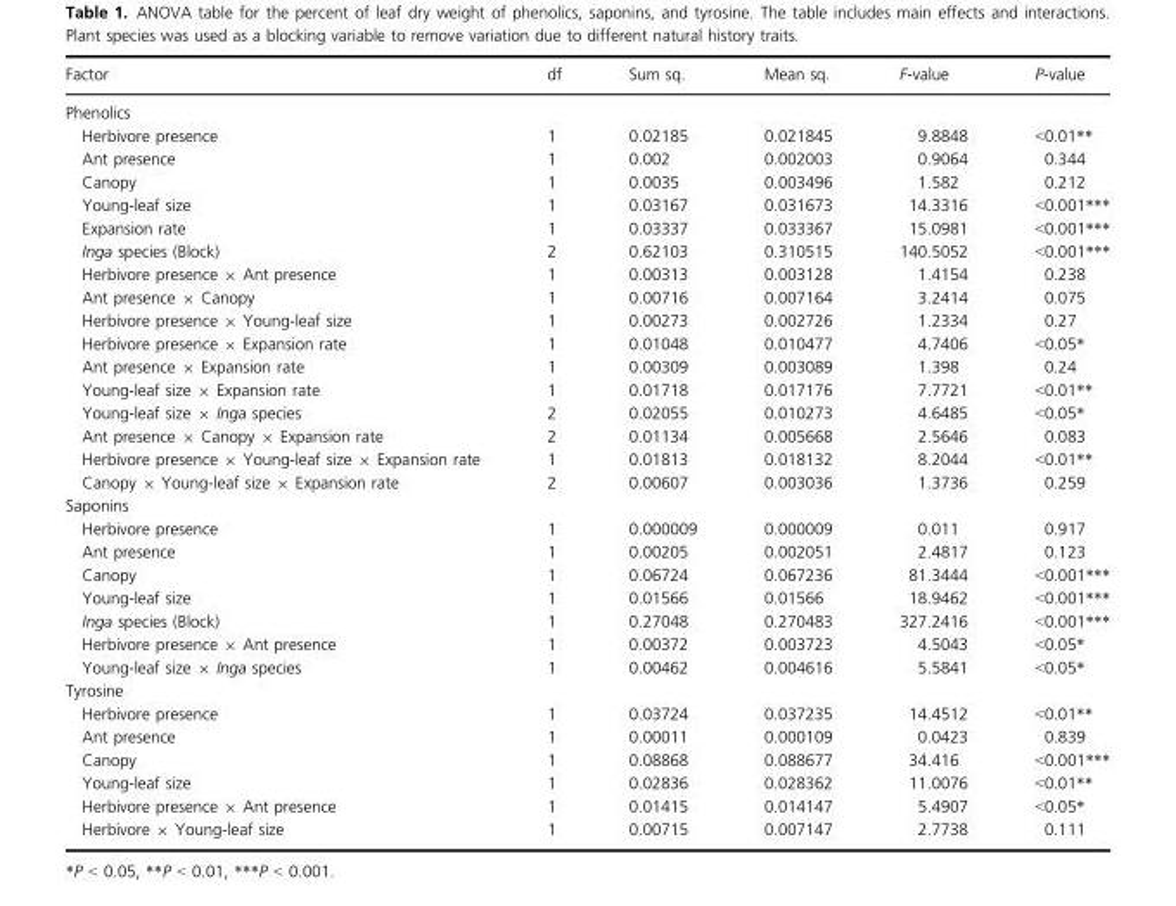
<table><thead><tr><td>Factor</td><td>df</td><td>Sum sq.</td><td>Mean sq.</td><td>F-value</td><td>P-value</td></tr></thead><tbody><tr><td colspan="6">Phenolics</td></tr><tr><td>Herbivore presence</td><td>1</td><td>0.02185</td><td>0.021845</td><td>9.8848</td><td>&lt;0.01**</td></tr><tr><td>Ant presence</td><td>1</td><td>0.002</td><td>0.002003</td><td>0.9064</td><td>0.344</td></tr><tr><td>Canopy</td><td>1</td><td>0.0035</td><td>0.003496</td><td>1.582</td><td>0.212</td></tr><tr><td>Young-leaf size</td><td>1</td><td>0.03167</td><td>0.031673</td><td>14.3316</td><td>&lt;0.001***</td></tr><tr><td>Expansion rate</td><td>1</td><td>0.03337</td><td>0.033367</td><td>15.0981</td><td>&lt;0.001***</td></tr><tr><td>Inga species (Block)</td><td>2</td><td>0.62103</td><td>0.310515</td><td>140.5052</td><td>&lt;0.001***</td></tr><tr><td>Herbivore presence × Ant presence</td><td>1</td><td>0.00313</td><td>0.003128</td><td>1.4154</td><td>0.238</td></tr><tr><td>Ant presence × Canopy</td><td>1</td><td>0.00716</td><td>0.007164</td><td>3.2414</td><td>0.075</td></tr><tr><td>Herbivore presence × Young-leaf size</td><td>1</td><td>0.00273</td><td>0.002726</td><td>1.2334</td><td>0.27</td></tr><tr><td>Herbivore presence × Expansion rate</td><td>1</td><td>0.01048</td><td>0.010477</td><td>4.7406</td><td>&lt;0.05*</td></tr><tr><td>Ant presence × Expansion rate</td><td>1</td><td>0.00309</td><td>0.003089</td><td>1.398</td><td>0.24</td></tr><tr><td>Young-leaf size × Expansion rate</td><td>1</td><td>0.01718</td><td>0.017176</td><td>7.7721</td><td>&lt;0.01**</td></tr><tr><td>Young-leaf size × Inga species</td><td>2</td><td>0.02055</td><td>0.010273</td><td>4.6485</td><td>&lt;0.05*</td></tr><tr><td>Ant presence × Canopy × Expansion rate</td><td>2</td><td>0.01134</td><td>0.005668</td><td>2.5646</td><td>0.083</td></tr><tr><td>Herbivore presence × Young-leaf size × Expansion rate</td><td>1</td><td>0.01813</td><td>0.018132</td><td>8.2044</td><td>&lt;0.01**</td></tr><tr><td>Canopy × Young-leaf size × Expansion rate</td><td>2</td><td>0.00607</td><td>0.003036</td><td>1.3736</td><td>0.259</td></tr><tr><td colspan="6">Saponins</td></tr><tr><td>Herbivore presence</td><td>1</td><td>0.000009</td><td>0.000009</td><td>0.011</td><td>0.917</td></tr><tr><td>Ant presence</td><td>1</td><td>0.00205</td><td>0.002051</td><td>2.4817</td><td>0.123</td></tr><tr><td>Canopy</td><td>1</td><td>0.06724</td><td>0.067236</td><td>81.3444</td><td>&lt;0.001***</td></tr><tr><td>Young-leaf size</td><td>1</td><td>0.01566</td><td>0.01566</td><td>18.9462</td><td>&lt;0.001***</td></tr><tr><td>Inga species (Block)</td><td>1</td><td>0.27048</td><td>0.270483</td><td>327.2416</td><td>&lt;0.001***</td></tr><tr><td>Herbivore presence × Ant presence</td><td>1</td><td>0.00372</td><td>0.003723</td><td>4.5043</td><td>&lt;0.05*</td></tr><tr><td>Young-leaf size × Inga species</td><td>1</td><td>0.00462</td><td>0.004616</td><td>5.5841</td><td>&lt;0.05*</td></tr><tr><td colspan="6">Tyrosine</td></tr><tr><td>Herbivore presence</td><td>1</td><td>0.03724</td><td>0.037235</td><td>14.4512</td><td>&lt;0.01**</td></tr><tr><td>Ant presence</td><td>1</td><td>0.00011</td><td>0.000109</td><td>0.0423</td><td>0.839</td></tr><tr><td>Canopy</td><td>1</td><td>0.08868</td><td>0.088677</td><td>34.416</td><td>&lt;0.001***</td></tr><tr><td>Young-leaf size</td><td>1</td><td>0.02836</td><td>0.028362</td><td>11.0076</td><td>&lt;0.01**</td></tr><tr><td>Herbivore presence × Ant presence</td><td>1</td><td>0.01415</td><td>0.014147</td><td>5.4907</td><td>&lt;0.05*</td></tr><tr><td>Herbivore × Young-leaf size</td><td>1</td><td>0.00715</td><td>0.007147</td><td>2.7738</td><td>0.111</td></tr></tbody></table>